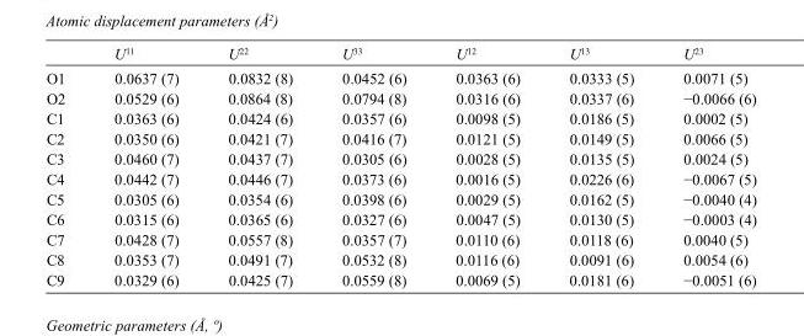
<table><thead><tr><td></td><td>U<sup>11</sup></td><td>U<sup>22</sup></td><td>U<sup>33</sup></td><td>U<sup>12</sup></td><td>U<sup>13</sup></td><td>U<sup>23</sup></td></tr></thead><tbody><tr><td>O1</td><td>0.0637 (7)</td><td>0.0832 (8)</td><td>0.0452 (6)</td><td>0.0363 (6)</td><td>0.0333 (5)</td><td>0.0071 (5)</td></tr><tr><td>O2</td><td>0.0529 (6)</td><td>0.0864 (8)</td><td>0.0794 (8)</td><td>0.0316 (6)</td><td>0.0337 (6)</td><td>−0.0066 (6)</td></tr><tr><td>C1</td><td>0.0363 (6)</td><td>0.0424 (6)</td><td>0.0357 (6)</td><td>0.0098 (5)</td><td>0.0186 (5)</td><td>0.0002 (5)</td></tr><tr><td>C2</td><td>0.0350 (6)</td><td>0.0421 (7)</td><td>0.0416 (7)</td><td>0.0121 (5)</td><td>0.0149 (5)</td><td>0.0066 (5)</td></tr><tr><td>C3</td><td>0.0460 (7)</td><td>0.0437 (7)</td><td>0.0305 (6)</td><td>0.0028 (5)</td><td>0.0135 (5)</td><td>0.0024 (5)</td></tr><tr><td>C4</td><td>0.0442 (7)</td><td>0.0446 (7)</td><td>0.0373 (6)</td><td>0.0016 (5)</td><td>0.0226 (6)</td><td>−0.0067 (5)</td></tr><tr><td>C5</td><td>0.0305 (6)</td><td>0.0354 (6)</td><td>0.0398 (6)</td><td>0.0029 (5)</td><td>0.0162 (5)</td><td>−0.0040 (4)</td></tr><tr><td>C6</td><td>0.0315 (6)</td><td>0.0365 (6)</td><td>0.0327 (6)</td><td>0.0047 (5)</td><td>0.0130 (5)</td><td>−0.0003 (4)</td></tr><tr><td>C7</td><td>0.0428 (7)</td><td>0.0557 (8)</td><td>0.0357 (7)</td><td>0.0110 (6)</td><td>0.0118 (6)</td><td>0.0040 (5)</td></tr><tr><td>C8</td><td>0.0353 (7)</td><td>0.0491 (7)</td><td>0.0532 (8)</td><td>0.0116 (6)</td><td>0.0091 (6)</td><td>0.0054 (6)</td></tr><tr><td>C9</td><td>0.0329 (6)</td><td>0.0425 (7)</td><td>0.0559 (8)</td><td>0.0069 (5)</td><td>0.0181 (6)</td><td>−0.0051 (6)</td></tr></tbody></table>